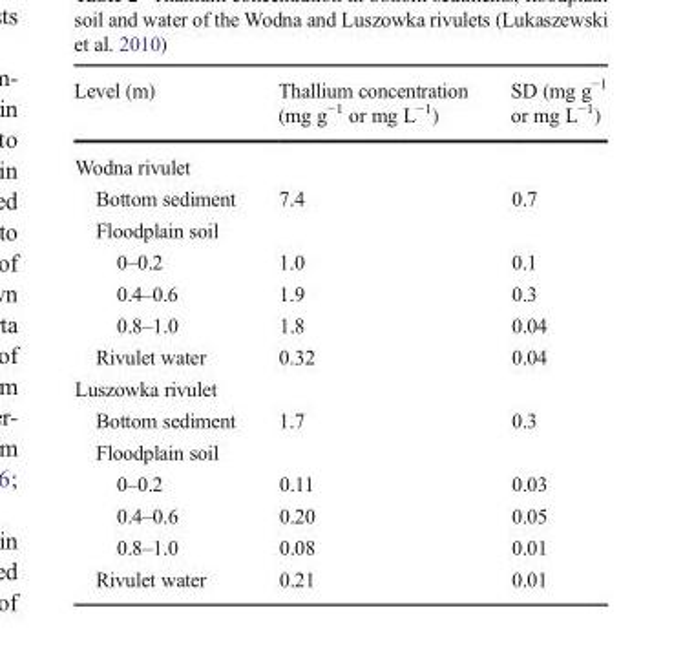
<table><thead><tr><td>Level (m)</td><td>Thallium concentration (mg g<sup>−1</sup> or mg L<sup>−1</sup>)</td><td>SD (mg g<sup>−1</sup> or mg L<sup>−1</sup>)</td></tr></thead><tbody><tr><td colspan="3">Wodna rivulet</td></tr><tr><td>Bottom sediment</td><td>7.4</td><td>0.7</td></tr><tr><td colspan="3">Floodplain soil</td></tr><tr><td>0–0.2</td><td>1.0</td><td>0.1</td></tr><tr><td>0.4–0.6</td><td>1.9</td><td>0.3</td></tr><tr><td>0.8–1.0</td><td>1.8</td><td>0.04</td></tr><tr><td>Rivulet water</td><td>0.32</td><td>0.04</td></tr><tr><td colspan="3">Luszowka rivulet</td></tr><tr><td>Bottom sediment</td><td>1.7</td><td>0.3</td></tr><tr><td colspan="3">Floodplain soil</td></tr><tr><td>0–0.2</td><td>0.11</td><td>0.03</td></tr><tr><td>0.4–0.6</td><td>0.20</td><td>0.05</td></tr><tr><td>0.8–1.0</td><td>0.08</td><td>0.01</td></tr><tr><td>Rivulet water</td><td>0.21</td><td>0.01</td></tr></tbody></table>